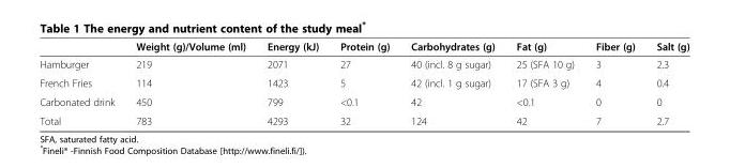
<table><thead><tr><td></td><td>Weight (g)/Volume (ml)</td><td>Energy (kJ)</td><td>Protein (g)</td><td>Carbohydrates (g)</td><td>Fat (g)</td><td>Fiber (g)</td><td>Salt (g)</td></tr></thead><tbody><tr><td>Hamburger</td><td>219</td><td>2071</td><td>27</td><td>40 (incl. 8 g sugar)</td><td>25 (SFA 10 g)</td><td>3</td><td>2.3</td></tr><tr><td>French Fries</td><td>114</td><td>1423</td><td>5</td><td>42 (incl. 1 g sugar)</td><td>17 (SFA 3 g)</td><td>4</td><td>0.4</td></tr><tr><td>Carbonated drink</td><td>450</td><td>799</td><td>&lt;0.1</td><td>42</td><td>&lt;0.1</td><td>0</td><td>0</td></tr><tr><td>Total</td><td>783</td><td>4293</td><td>32</td><td>124</td><td>42</td><td>7</td><td>2.7</td></tr></tbody></table>